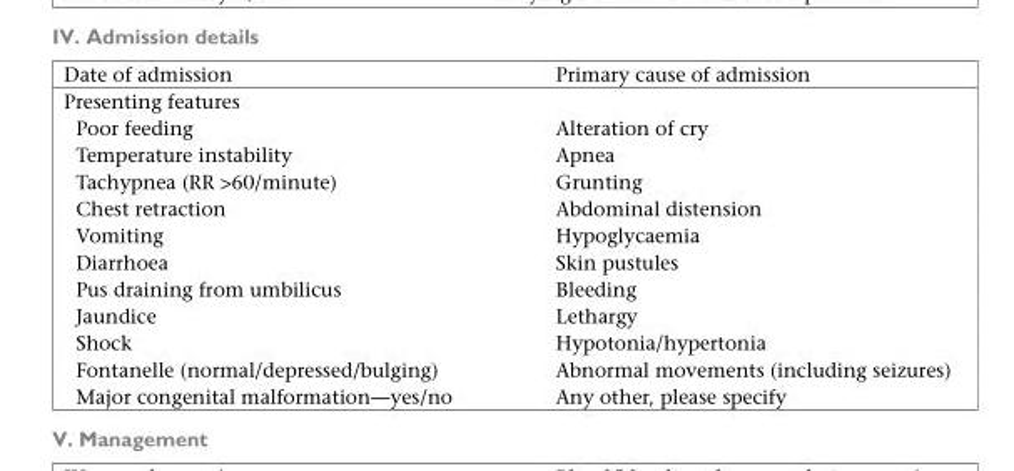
<table><thead><tr><td>Date of admission</td><td>Primary cause of admission</td></tr></thead><tbody><tr><td colspan="2">Presenting features</td></tr><tr><td>Poor feeding</td><td>Alteration of cry</td></tr><tr><td>Temperature instability</td><td>Apnea</td></tr><tr><td>Tachypnea (RR &gt;60/minute)</td><td>Grunting</td></tr><tr><td>Chest retraction</td><td>Abdominal distension</td></tr><tr><td>Vomiting</td><td>Hypoglycaemia</td></tr><tr><td>Diarrhoea</td><td>Skin pustules</td></tr><tr><td>Pus draining from umbilicus</td><td>Bleeding</td></tr><tr><td>Jaundice</td><td>Lethargy</td></tr><tr><td>Shock</td><td>Hypotonia/hypertonia</td></tr><tr><td>Fontanelle (normal/depressed/bulging)</td><td>Abnormal movements (including seizures)</td></tr><tr><td>Major congenital malformation―yes/no</td><td>Any other, please specify</td></tr></tbody></table>